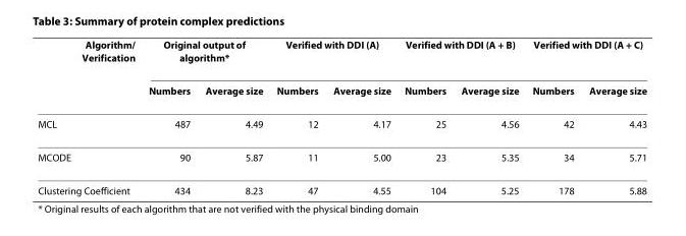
<table><thead><tr><td rowspan="2">Algorithm/ Verification</td><td colspan="2">Original output of algorithm*</td><td colspan="2">Verified with DDI (A)</td><td colspan="2">Verified with DDI (A + B)</td><td colspan="2">Verified with DDI (A + C)</td></tr><tr><td>Numbers</td><td>Average size</td><td>Numbers</td><td>Average size</td><td>Numbers</td><td>Average size</td><td>Numbers</td><td>Average size</td></tr></thead><tbody><tr><td>MCL</td><td>487</td><td>4.49</td><td>12</td><td>4.17</td><td>25</td><td>4.56</td><td>42</td><td>4.43</td></tr><tr><td>MCODE</td><td>90</td><td>5.87</td><td>11</td><td>5.00</td><td>23</td><td>5.35</td><td>34</td><td>5.71</td></tr><tr><td>Clustering Coefficient</td><td>434</td><td>8.23</td><td>47</td><td>4.55</td><td>104</td><td>5.25</td><td>178</td><td>5.88</td></tr></tbody></table>